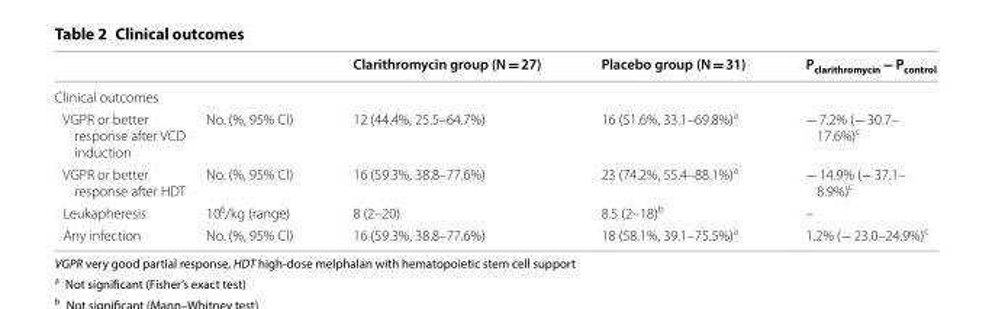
<table><thead><tr><td></td><td></td><td>Clarithromycin group (N = 27)</td><td>Placebo group (N = 31)</td><td>P<sub>clarithromycin</sub> − P<sub>control</sub></td></tr></thead><tbody><tr><td colspan="5">Clinical outcomes</td></tr><tr><td>VGPR or better response after VCD induction</td><td>No. (%, 95% CI)</td><td>12 (44.4%, 25.5–64.7%)</td><td>16 (51.6%, 33.1–69.8%)<sup>a</sup></td><td>− 7.2% (− 30.7– 17.6%)<sup>c</sup></td></tr><tr><td>VGPR or better response after HDT</td><td>No. (%, 95% CI)</td><td>16 (59.3%, 38.8–77.6%)</td><td>23 (74.2%, 55.4–88.1%)<sup>a</sup></td><td>− 14.9% (− 37.1– 8.9%)<sup>c</sup></td></tr><tr><td>Leukapheresis</td><td>10<sup>6</sup>/kg (range)</td><td>8 (2–20)</td><td>8.5 (2–18)<sup>b</sup></td><td>–</td></tr><tr><td>Any infection</td><td>No. (%, 95% CI)</td><td>16 (59.3%, 38.8–77.6%)</td><td>18 (58.1%, 39.1–75.5%)<sup>a</sup></td><td>1.2% (− 23.0–24.9%)<sup>c</sup></td></tr></tbody></table>